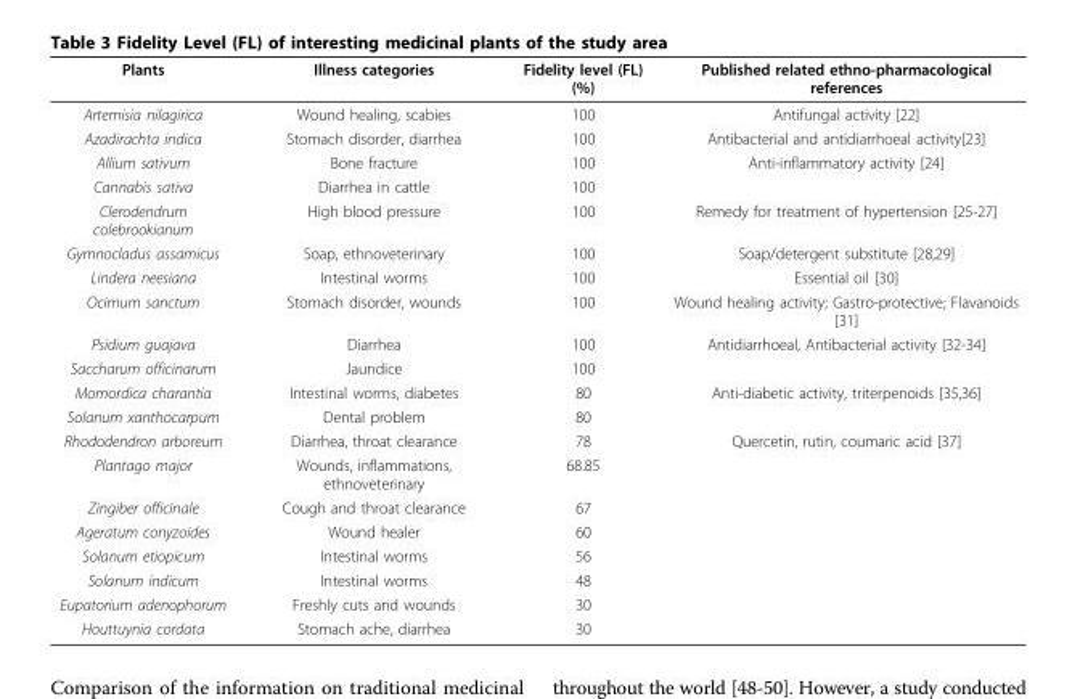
<table><thead><tr><td>Plants</td><td>Illness categories</td><td>Fidelity level (FL) (%)</td><td>Published related ethno-pharmacological references</td></tr></thead><tbody><tr><td>Artemisia nilagirica</td><td>Wound healing, scabies</td><td>100</td><td>Antifungal activity [22]</td></tr><tr><td>Azadirachta indica</td><td>Stomach disorder, diarrhea</td><td>100</td><td>Antibacterial and antidiarrhoeal activity[23]</td></tr><tr><td>Allium sativum</td><td>Bone fracture</td><td>100</td><td>Anti-inflammatory activity [24]</td></tr><tr><td>Cannabis sativa</td><td>Diarrhea in cattle</td><td>100</td><td></td></tr><tr><td>Clerodendrum colebrookianum</td><td>High blood pressure</td><td>100</td><td>Remedy for treatment of hypertension [25-27]</td></tr><tr><td>Gymnocladus assamicus</td><td>Soap, ethnoveterinary</td><td>100</td><td>Soap/detergent substitute [28,29]</td></tr><tr><td>Lindera neesiana</td><td>Intestinal worms</td><td>100</td><td>Essential oil [30]</td></tr><tr><td>Ocimum sanctum</td><td>Stomach disorder, wounds</td><td>100</td><td>Wound healing activity; Gastro-protective; Flavanoids [31]</td></tr><tr><td>Psidium guajava</td><td>Diarrhea</td><td>100</td><td>Antidiarrhoeal, Antibacterial activity [32-34]</td></tr><tr><td>Saccharum officinarum</td><td>Jaundice</td><td>100</td><td></td></tr><tr><td>Momordica charantia</td><td>Intestinal worms, diabetes</td><td>80</td><td>Anti-diabetic activity, triterpenoids [35,36]</td></tr><tr><td>Solanum xanthocarpum</td><td>Dental problem</td><td>80</td><td></td></tr><tr><td>Rhododendron arboreum</td><td>Diarrhea, throat clearance</td><td>78</td><td>Quercetin, rutin, coumaric acid [37]</td></tr><tr><td>Plantago major</td><td>Wounds, inflammations, ethnoveterinary</td><td>68.85</td><td></td></tr><tr><td>Zingiber officinale</td><td>Cough and throat clearance</td><td>67</td><td></td></tr><tr><td>Ageratum conyzoides</td><td>Wound healer</td><td>60</td><td></td></tr><tr><td>Solanum etiopicum</td><td>Intestinal worms</td><td>56</td><td></td></tr><tr><td>Solanum indicum</td><td>Intestinal worms</td><td>48</td><td></td></tr><tr><td>Eupatorium adenophorum</td><td>Freshly cuts and wounds</td><td>30</td><td></td></tr><tr><td>Houttuynia cordata</td><td>Stomach ache, diarrhea</td><td>30</td><td></td></tr></tbody></table>